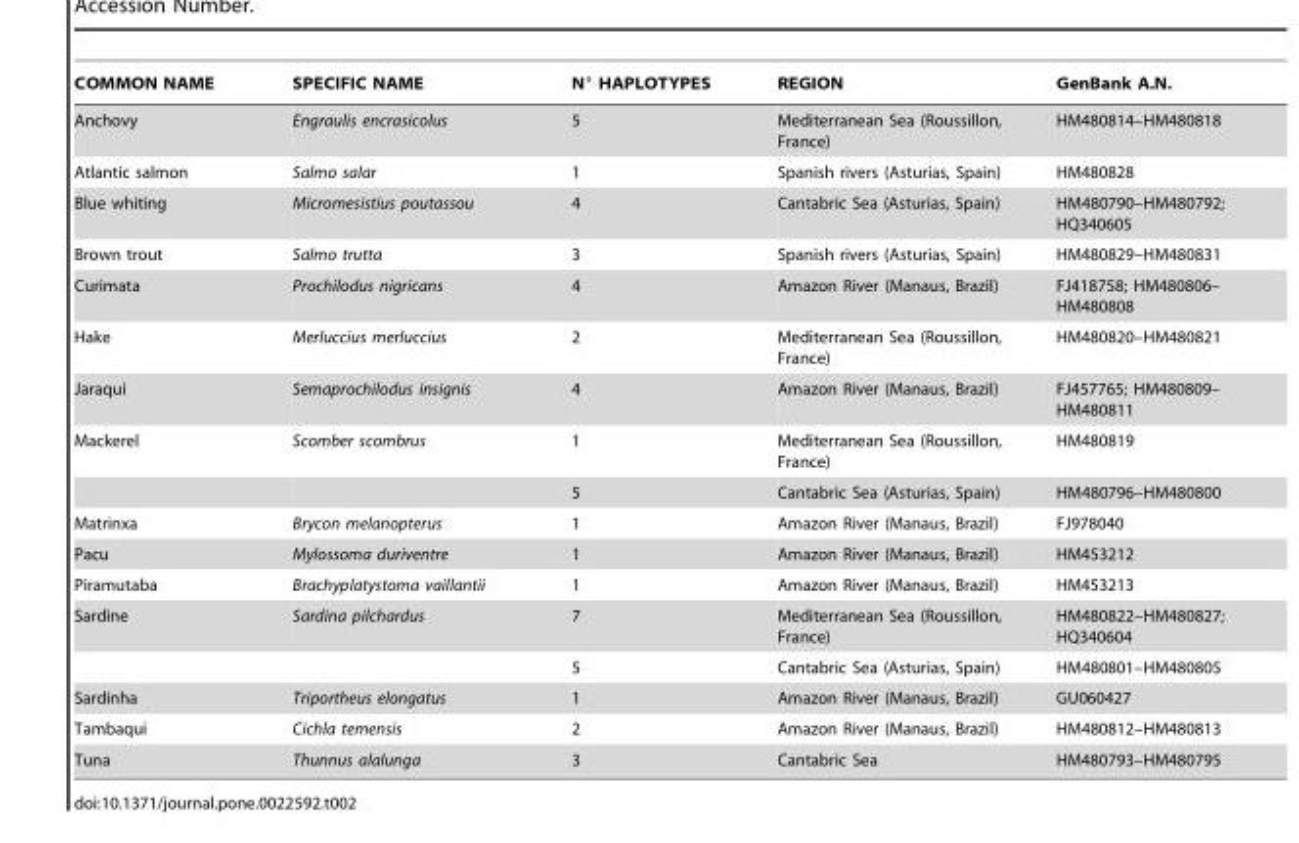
<table><thead><tr><td>COMMON NAME</td><td>SPECIFIC NAME</td><td>N° HAPLOTYPES</td><td>REGION</td><td>GenBank A.N.</td></tr></thead><tbody><tr><td>Anchovy</td><td>Engraulis encrasicolus</td><td>5</td><td>Mediterranean Sea (Roussillon, France)</td><td>HM480814–HM480818</td></tr><tr><td>Atlantic salmon</td><td>Salmo salar</td><td>1</td><td>Spanish rivers (Asturias, Spain)</td><td>HM480828</td></tr><tr><td>Blue whiting</td><td>Micromesistius poutassou</td><td>4</td><td>Cantabric Sea (Asturias, Spain)</td><td>HM480790–HM480792; HQ340605</td></tr><tr><td>Brown trout</td><td>Salmo trutta</td><td>3</td><td>Spanish rivers (Asturias, Spain)</td><td>HM480829–HM480831</td></tr><tr><td>Curimata</td><td>Prochilodus nigricans</td><td>4</td><td>Amazon River (Manaus, Brazil)</td><td>FJ418758; HM480806– HM480808</td></tr><tr><td>Hake</td><td>Merluccius merluccius</td><td>2</td><td>Mediterranean Sea (Roussillon, France)</td><td>HM480820–HM480821</td></tr><tr><td>Jaraqui</td><td>Semaprochilodus insignis</td><td>4</td><td>Amazon River (Manaus, Brazil)</td><td>FJ457765; HM480809– HM480811</td></tr><tr><td rowspan="2">Mackerel</td><td>Scomber scombrus</td><td>1</td><td>Mediterranean Sea (Roussillon, France)</td><td>HM480819</td></tr><tr><td></td><td>5</td><td>Cantabric Sea (Asturias, Spain)</td><td>HM480796–HM480800</td></tr><tr><td>Matrinxa</td><td>Brycon melanopterus</td><td>1</td><td>Amazon River (Manaus, Brazil)</td><td>FJ978040</td></tr><tr><td>Pacu</td><td>Mylossoma duriventre</td><td>1</td><td>Amazon River (Manaus, Brazil)</td><td>HM453212</td></tr><tr><td>Piramutaba</td><td>Brachyplatystoma vaillantii</td><td>1</td><td>Amazon River (Manaus, Brazil)</td><td>HM453213</td></tr><tr><td rowspan="2">Sardine</td><td>Sardina pilchardus</td><td>7</td><td>Mediterranean Sea (Roussillon, France)</td><td>HM480822–HM480827; HQ340604</td></tr><tr><td></td><td>5</td><td>Cantabric Sea (Asturias, Spain)</td><td>HM480801–HM480805</td></tr><tr><td>Sardinha</td><td>Triportheus elongatus</td><td>1</td><td>Amazon River (Manaus, Brazil)</td><td>GU060427</td></tr><tr><td>Tambaqui</td><td>Cichla temensis</td><td>2</td><td>Amazon River (Manaus, Brazil)</td><td>HM480812–HM480813</td></tr><tr><td>Tuna</td><td>Thunnus alalunga</td><td>3</td><td>Cantabric Sea</td><td>HM480793–HM480795</td></tr></tbody></table>